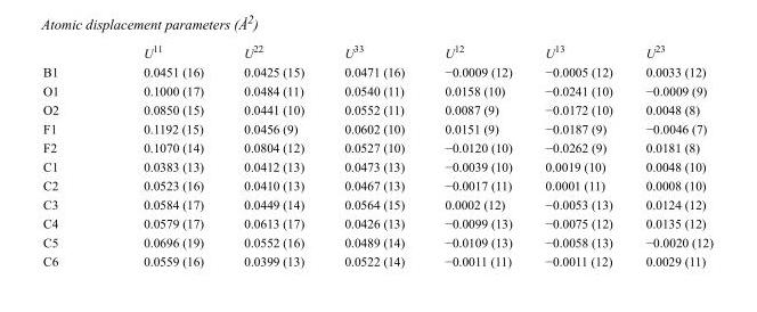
<table><thead><tr><td></td><td>U<sup>11</sup></td><td>U<sup>22</sup></td><td>U<sup>33</sup></td><td>U<sup>12</sup></td><td>U<sup>13</sup></td><td>U<sup>23</sup></td></tr></thead><tbody><tr><td>B1</td><td>0.0451 (16)</td><td>0.0425 (15)</td><td>0.0471 (16)</td><td>−0.0009 (12)</td><td>−0.0005 (12)</td><td>0.0033 (12)</td></tr><tr><td>O1</td><td>0.1000 (17)</td><td>0.0484 (11)</td><td>0.0540 (11)</td><td>0.0158 (10)</td><td>−0.0241 (10)</td><td>−0.0009 (9)</td></tr><tr><td>O2</td><td>0.0850 (15)</td><td>0.0441 (10)</td><td>0.0552 (11)</td><td>0.0087 (9)</td><td>−0.0172 (10)</td><td>0.0048 (8)</td></tr><tr><td>F1</td><td>0.1192 (15)</td><td>0.0456 (9)</td><td>0.0602 (10)</td><td>0.0151 (9)</td><td>−0.0187 (9)</td><td>−0.0046 (7)</td></tr><tr><td>F2</td><td>0.1070 (14)</td><td>0.0804 (12)</td><td>0.0527 (10)</td><td>−0.0120 (10)</td><td>−0.0262 (9)</td><td>0.0181 (8)</td></tr><tr><td>C1</td><td>0.0383 (13)</td><td>0.0412 (13)</td><td>0.0473 (13)</td><td>−0.0039 (10)</td><td>0.0019 (10)</td><td>0.0048 (10)</td></tr><tr><td>C2</td><td>0.0523 (16)</td><td>0.0410 (13)</td><td>0.0467 (13)</td><td>−0.0017 (11)</td><td>0.0001 (11)</td><td>0.0008 (10)</td></tr><tr><td>C3</td><td>0.0584 (17)</td><td>0.0449 (14)</td><td>0.0564 (15)</td><td>0.0002 (12)</td><td>−0.0053 (13)</td><td>0.0124 (12)</td></tr><tr><td>C4</td><td>0.0579 (17)</td><td>0.0613 (17)</td><td>0.0426 (13)</td><td>−0.0099 (13)</td><td>−0.0075 (12)</td><td>0.0135 (12)</td></tr><tr><td>C5</td><td>0.0696 (19)</td><td>0.0552 (16)</td><td>0.0489 (14)</td><td>−0.0109 (13)</td><td>−0.0058 (13)</td><td>−0.0020 (12)</td></tr><tr><td>C6</td><td>0.0559 (16)</td><td>0.0399 (13)</td><td>0.0522 (14)</td><td>−0.0011 (11)</td><td>−0.0011 (12)</td><td>0.0029 (11)</td></tr></tbody></table>